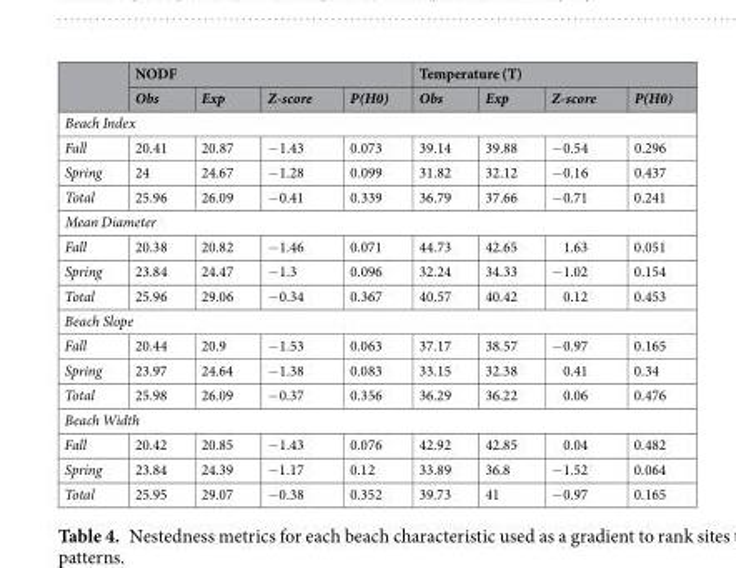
<table><thead><tr><td rowspan="2"></td><td colspan="4">NODF</td><td colspan="4">Temperature (T)</td></tr><tr><td>Obs</td><td>Exp</td><td>Z-score</td><td>P(H0)</td><td>Obs</td><td>Exp</td><td>Z-score</td><td>P(H0)</td></tr></thead><tbody><tr><td colspan="9">Beach Index</td></tr><tr><td>Fall</td><td>20.41</td><td>20.87</td><td>−1.43</td><td>0.073</td><td>39.14</td><td>39.88</td><td>−0.54</td><td>0.296</td></tr><tr><td>Spring</td><td>24</td><td>24.67</td><td>−1.28</td><td>0.099</td><td>31.82</td><td>32.12</td><td>−0.16</td><td>0.437</td></tr><tr><td>Total</td><td>25.96</td><td>26.09</td><td>−0.41</td><td>0.339</td><td>36.79</td><td>37.66</td><td>−0.71</td><td>0.241</td></tr><tr><td colspan="9">Mean Diameter</td></tr><tr><td>Fall</td><td>20.38</td><td>20.82</td><td>−1.46</td><td>0.071</td><td>44.73</td><td>42.65</td><td>1.63</td><td>0.051</td></tr><tr><td>Spring</td><td>23.84</td><td>24.47</td><td>−1.3</td><td>0.096</td><td>32.24</td><td>34.33</td><td>−1.02</td><td>0.154</td></tr><tr><td>Total</td><td>25.96</td><td>29.06</td><td>−0.34</td><td>0.367</td><td>40.57</td><td>40.42</td><td>0.12</td><td>0.453</td></tr><tr><td colspan="9">Beach Slope</td></tr><tr><td>Fall</td><td>20.44</td><td>20.9</td><td>−1.53</td><td>0.063</td><td>37.17</td><td>38.57</td><td>−0.97</td><td>0.165</td></tr><tr><td>Spring</td><td>23.97</td><td>24.64</td><td>−1.38</td><td>0.083</td><td>33.15</td><td>32.38</td><td>0.41</td><td>0.34</td></tr><tr><td>Total</td><td>25.98</td><td>26.09</td><td>−0.37</td><td>0.356</td><td>36.29</td><td>36.22</td><td>0.06</td><td>0.476</td></tr><tr><td colspan="9">Beach Width</td></tr><tr><td>Fall</td><td>20.42</td><td>20.85</td><td>−1.43</td><td>0.076</td><td>42.92</td><td>42.85</td><td>0.04</td><td>0.482</td></tr><tr><td>Spring</td><td>23.84</td><td>24.39</td><td>−1.17</td><td>0.12</td><td>33.89</td><td>36.8</td><td>−1.52</td><td>0.064</td></tr><tr><td>Total</td><td>25.95</td><td>29.07</td><td>−0.38</td><td>0.352</td><td>39.73</td><td>41</td><td>−0.97</td><td>0.165</td></tr></tbody></table>